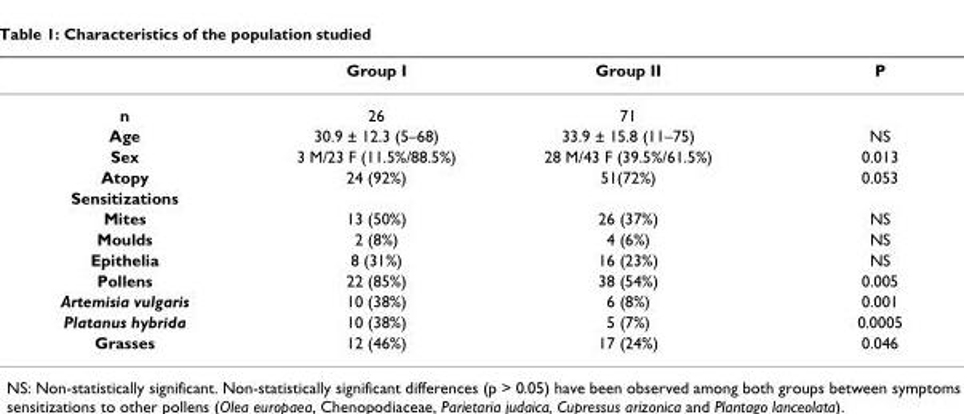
<table><thead><tr><td></td><td>Group I</td><td>Group II</td><td>P</td></tr></thead><tbody><tr><td>n</td><td>26</td><td>71</td><td></td></tr><tr><td>Age</td><td>30.9 ± 12.3 (5–68)</td><td>33.9 ± 15.8 (11–75)</td><td>NS</td></tr><tr><td>Sex</td><td>3 M/23 F (11.5%/88.5%)</td><td>28 M/43 F (39.5%/61.5%)</td><td>0.013</td></tr><tr><td>Atopy</td><td>24 (92%)</td><td>51(72%)</td><td>0.053</td></tr><tr><td colspan="4">Sensitizations</td></tr><tr><td>Mites</td><td>13 (50%)</td><td>26 (37%)</td><td>NS</td></tr><tr><td>Moulds</td><td>2 (8%)</td><td>4 (6%)</td><td>NS</td></tr><tr><td>Epithelia</td><td>8 (31%)</td><td>16 (23%)</td><td>NS</td></tr><tr><td>Pollens</td><td>22 (85%)</td><td>38 (54%)</td><td>0.005</td></tr><tr><td>Artemisia vulgaris</td><td>10 (38%)</td><td>6 (8%)</td><td>0.001</td></tr><tr><td>Platanus hybrida</td><td>10 (38%)</td><td>5 (7%)</td><td>0.0005</td></tr><tr><td>Grasses</td><td>12 (46%)</td><td>17 (24%)</td><td>0.046</td></tr></tbody></table>